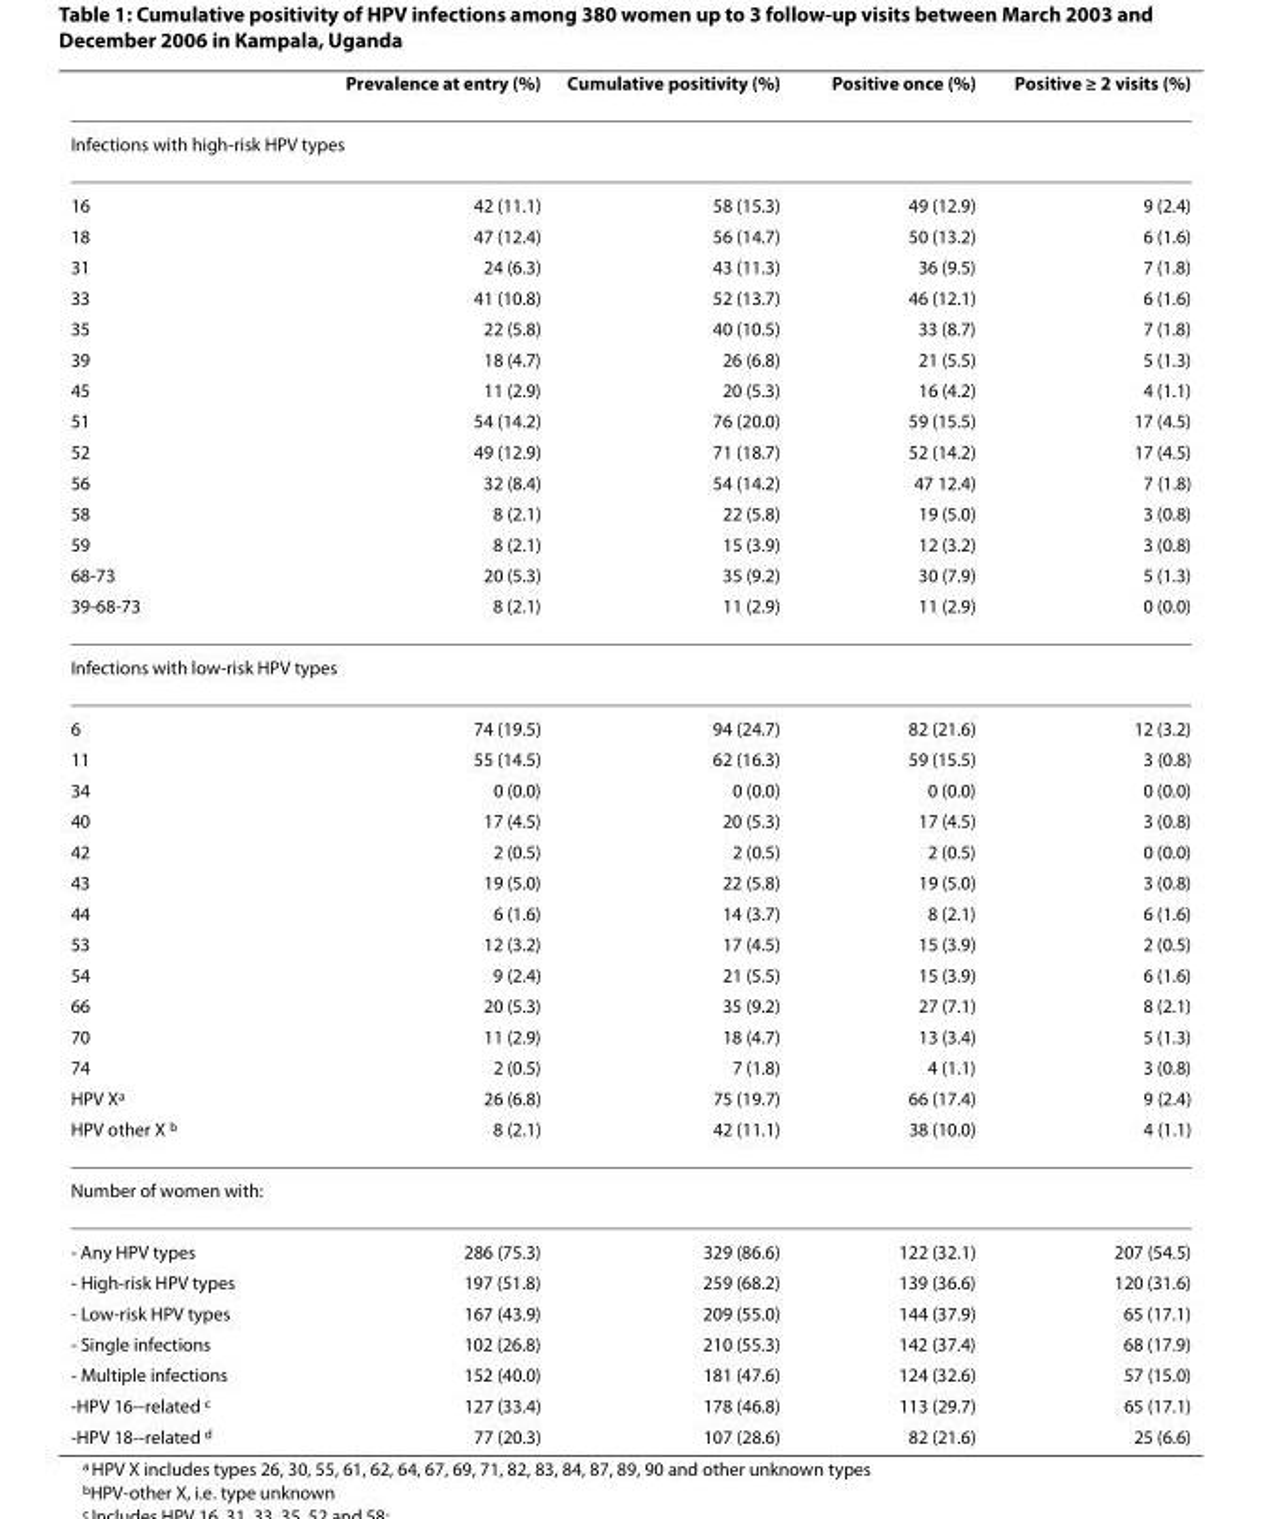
<table><thead><tr><td></td><td>Prevalence at entry (%)</td><td>Cumulative positivity (%)</td><td>Positive once (%)</td><td>Positive ≥ 2 visits (%)</td></tr></thead><tbody><tr><td colspan="5">Infections with high-risk HPV types</td></tr><tr><td>16</td><td>42 (11.1)</td><td>58 (15.3)</td><td>49 (12.9)</td><td>9 (2.4)</td></tr><tr><td>18</td><td>47 (12.4)</td><td>56 (14.7)</td><td>50 (13.2)</td><td>6 (1.6)</td></tr><tr><td>31</td><td>24 (6.3)</td><td>43 (11.3)</td><td>36 (9.5)</td><td>7 (1.8)</td></tr><tr><td>33</td><td>41 (10.8)</td><td>52 (13.7)</td><td>46 (12.1)</td><td>6 (1.6)</td></tr><tr><td>35</td><td>22 (5.8)</td><td>40 (10.5)</td><td>33 (8.7)</td><td>7 (1.8)</td></tr><tr><td>39</td><td>18 (4.7)</td><td>26 (6.8)</td><td>21 (5.5)</td><td>5 (1.3)</td></tr><tr><td>45</td><td>11 (2.9)</td><td>20 (5.3)</td><td>16 (4.2)</td><td>4 (1.1)</td></tr><tr><td>51</td><td>54 (14.2)</td><td>76 (20.0)</td><td>59 (15.5)</td><td>17 (4.5)</td></tr><tr><td>52</td><td>49 (12.9)</td><td>71 (18.7)</td><td>52 (14.2)</td><td>17 (4.5)</td></tr><tr><td>56</td><td>32 (8.4)</td><td>54 (14.2)</td><td>47 12.4)</td><td>7 (1.8)</td></tr><tr><td>58</td><td>8 (2.1)</td><td>22 (5.8)</td><td>19 (5.0)</td><td>3 (0.8)</td></tr><tr><td>59</td><td>8 (2.1)</td><td>15 (3.9)</td><td>12 (3.2)</td><td>3 (0.8)</td></tr><tr><td>68-73</td><td>20 (5.3)</td><td>35 (9.2)</td><td>30 (7.9)</td><td>5 (1.3)</td></tr><tr><td>39-68-73</td><td>8 (2.1)</td><td>11 (2.9)</td><td>11 (2.9)</td><td>0 (0.0)</td></tr><tr><td colspan="5">Infections with low-risk HPV types</td></tr><tr><td>6</td><td>74 (19.5)</td><td>94 (24.7)</td><td>82 (21.6)</td><td>12 (3.2)</td></tr><tr><td>11</td><td>55 (14.5)</td><td>62 (16.3)</td><td>59 (15.5)</td><td>3 (0.8)</td></tr><tr><td>34</td><td>0 (0.0)</td><td>0 (0.0)</td><td>0 (0.0)</td><td>0 (0.0)</td></tr><tr><td>40</td><td>17 (4.5)</td><td>20 (5.3)</td><td>17 (4.5)</td><td>3 (0.8)</td></tr><tr><td>42</td><td>2 (0.5)</td><td>2 (0.5)</td><td>2 (0.5)</td><td>0 (0.0)</td></tr><tr><td>43</td><td>19 (5.0)</td><td>22 (5.8)</td><td>19 (5.0)</td><td>3 (0.8)</td></tr><tr><td>44</td><td>6 (1.6)</td><td>14 (3.7)</td><td>8 (2.1)</td><td>6 (1.6)</td></tr><tr><td>53</td><td>12 (3.2)</td><td>17 (4.5)</td><td>15 (3.9)</td><td>2 (0.5)</td></tr><tr><td>54</td><td>9 (2.4)</td><td>21 (5.5)</td><td>15 (3.9)</td><td>6 (1.6)</td></tr><tr><td>66</td><td>20 (5.3)</td><td>35 (9.2)</td><td>27 (7.1)</td><td>8 (2.1)</td></tr><tr><td>70</td><td>11 (2.9)</td><td>18 (4.7)</td><td>13 (3.4)</td><td>5 (1.3)</td></tr><tr><td>74</td><td>2 (0.5)</td><td>7 (1.8)</td><td>4 (1.1)</td><td>3 (0.8)</td></tr><tr><td>HPV X<sup>a</sup></td><td>26 (6.8)</td><td>75 (19.7)</td><td>66 (17.4)</td><td>9 (2.4)</td></tr><tr><td>HPV other X <sup>b</sup></td><td>8 (2.1)</td><td>42 (11.1)</td><td>38 (10.0)</td><td>4 (1.1)</td></tr><tr><td colspan="5">Number of women with:</td></tr><tr><td>- Any HPV types</td><td>286 (75.3)</td><td>329 (86.6)</td><td>122 (32.1)</td><td>207 (54.5)</td></tr><tr><td>- High-risk HPV types</td><td>197 (51.8)</td><td>259 (68.2)</td><td>139 (36.6)</td><td>120 (31.6)</td></tr><tr><td>- Low-risk HPV types</td><td>167 (43.9)</td><td>209 (55.0)</td><td>144 (37.9)</td><td>65 (17.1)</td></tr><tr><td>- Single infections</td><td>102 (26.8)</td><td>210 (55.3)</td><td>142 (37.4)</td><td>68 (17.9)</td></tr><tr><td>- Multiple infections</td><td>152 (40.0)</td><td>181 (47.6)</td><td>124 (32.6)</td><td>57 (15.0)</td></tr><tr><td>-HPV 16--related <sup>c</sup></td><td>127 (33.4)</td><td>178 (46.8)</td><td>113 (29.7)</td><td>65 (17.1)</td></tr><tr><td>-HPV 18--related <sup>d</sup></td><td>77 (20.3)</td><td>107 (28.6)</td><td>82 (21.6)</td><td>25 (6.6)</td></tr></tbody></table>